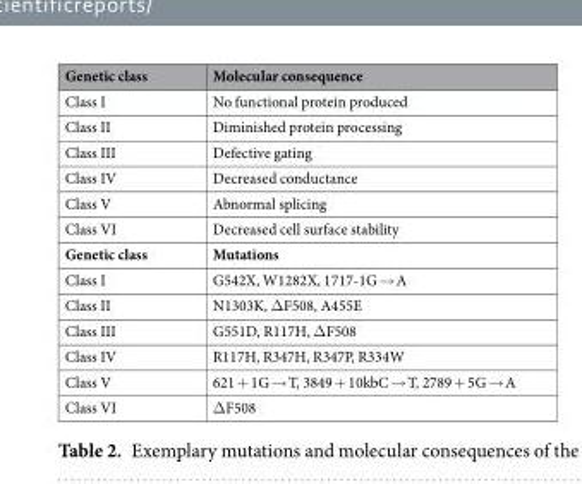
<table><thead><tr><td>Genetic class</td><td>Molecular consequence</td></tr></thead><tbody><tr><td>Class I</td><td>No functional protein produced</td></tr><tr><td>Class II</td><td>Diminished protein processing</td></tr><tr><td>Class III</td><td>Defective gating</td></tr><tr><td>Class IV</td><td>Decreased conductance</td></tr><tr><td>Class V</td><td>Abnormal splicing</td></tr><tr><td>Class VI</td><td>Decreased cell surface stability</td></tr><tr><td>Genetic class</td><td>Mutations</td></tr><tr><td>Class I</td><td>G542X, W1282X, 1717-1G → A</td></tr><tr><td>Class II</td><td>N1303K, ΔF508, A455E</td></tr><tr><td>Class III</td><td>G551D, R117H, ΔF508</td></tr><tr><td>Class IV</td><td>R117H, R347H, R347P, R334W</td></tr><tr><td>Class V</td><td>621 + 1G → T, 3849 + 10kbC → T, 2789 + 5G → A</td></tr><tr><td>Class VI</td><td>ΔF508</td></tr></tbody></table>